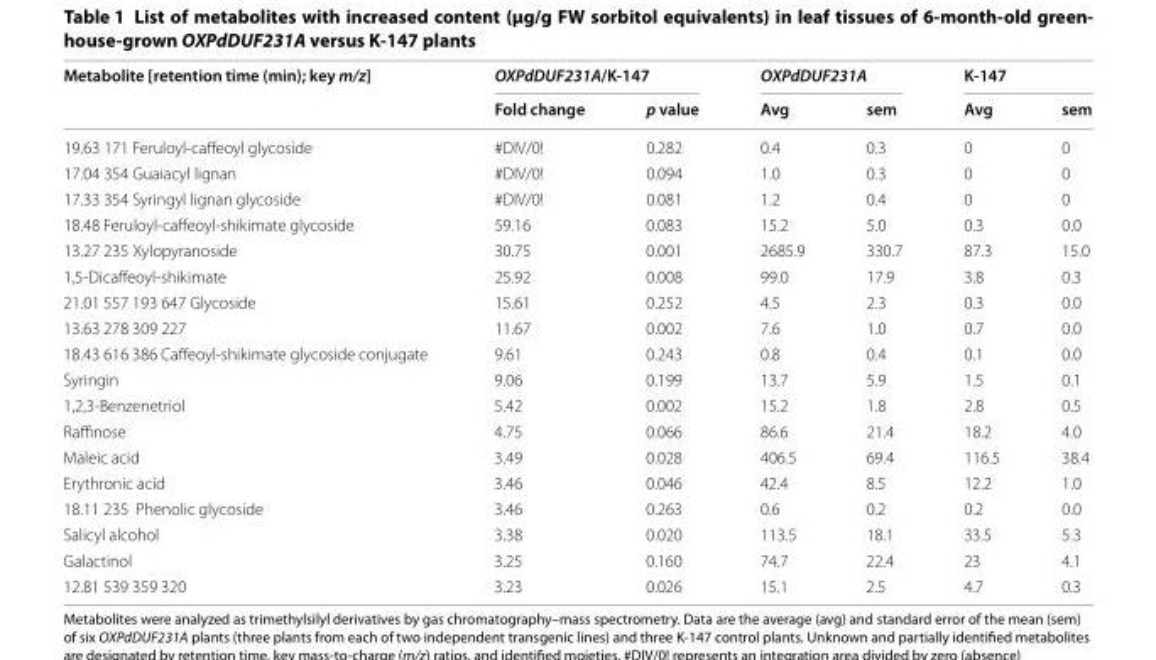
<table><thead><tr><td rowspan="2">Metabolite [retention time (min); key m/z]</td><td colspan="2">OXPdDUF231A/K-147</td><td colspan="2">OXPdDUF231A</td><td colspan="2">K-147</td></tr><tr><td>Fold change</td><td>p value</td><td>Avg</td><td>sem</td><td>Avg</td><td>sem</td></tr></thead><tbody><tr><td>19.63 171 Feruloyl‑caffeoyl glycoside</td><td>#DIV/0!</td><td>0.282</td><td>0.4</td><td>0.3</td><td>0</td><td>0</td></tr><tr><td>17.04 354 Guaiacyl lignan</td><td>#DIV/0!</td><td>0.094</td><td>1.0</td><td>0.3</td><td>0</td><td>0</td></tr><tr><td>17.33 354 Syringyl lignan glycoside</td><td>#DIV/0!</td><td>0.081</td><td>1.2</td><td>0.4</td><td>0</td><td>0</td></tr><tr><td>18.48 Feruloyl‑caffeoyl‑shikimate glycoside</td><td>59.16</td><td>0.083</td><td>15.2</td><td>5.0</td><td>0.3</td><td>0.0</td></tr><tr><td>13.27 235 Xylopyranoside</td><td>30.75</td><td>0.001</td><td>2685.9</td><td>330.7</td><td>87.3</td><td>15.0</td></tr><tr><td>1,5‑Dicaffeoyl‑shikimate</td><td>25.92</td><td>0.008</td><td>99.0</td><td>17.9</td><td>3.8</td><td>0.3</td></tr><tr><td>21.01 557 193 647 Glycoside</td><td>15.61</td><td>0.252</td><td>4.5</td><td>2.3</td><td>0.3</td><td>0.0</td></tr><tr><td>13.63 278 309 227</td><td>11.67</td><td>0.002</td><td>7.6</td><td>1.0</td><td>0.7</td><td>0.0</td></tr><tr><td>18.43 616 386 Caffeoyl‑shikimate glycoside conjugate</td><td>9.61</td><td>0.243</td><td>0.8</td><td>0.4</td><td>0.1</td><td>0.0</td></tr><tr><td>Syringin</td><td>9.06</td><td>0.199</td><td>13.7</td><td>5.9</td><td>1.5</td><td>0.1</td></tr><tr><td>1,2,3‑Benzenetriol</td><td>5.42</td><td>0.002</td><td>15.2</td><td>1.8</td><td>2.8</td><td>0.5</td></tr><tr><td>Raffinose</td><td>4.75</td><td>0.066</td><td>86.6</td><td>21.4</td><td>18.2</td><td>4.0</td></tr><tr><td>Maleic acid</td><td>3.49</td><td>0.028</td><td>406.5</td><td>69.4</td><td>116.5</td><td>38.4</td></tr><tr><td>Erythronic acid</td><td>3.46</td><td>0.046</td><td>42.4</td><td>8.5</td><td>12.2</td><td>1.0</td></tr><tr><td>18.11 235 Phenolic glycoside</td><td>3.46</td><td>0.263</td><td>0.6</td><td>0.2</td><td>0.2</td><td>0.0</td></tr><tr><td>Salicyl alcohol</td><td>3.38</td><td>0.020</td><td>113.5</td><td>18.1</td><td>33.5</td><td>5.3</td></tr><tr><td>Galactinol</td><td>3.25</td><td>0.160</td><td>74.7</td><td>22.4</td><td>23</td><td>4.1</td></tr><tr><td>12.81 539 359 320</td><td>3.23</td><td>0.026</td><td>15.1</td><td>2.5</td><td>4.7</td><td>0.3</td></tr></tbody></table>